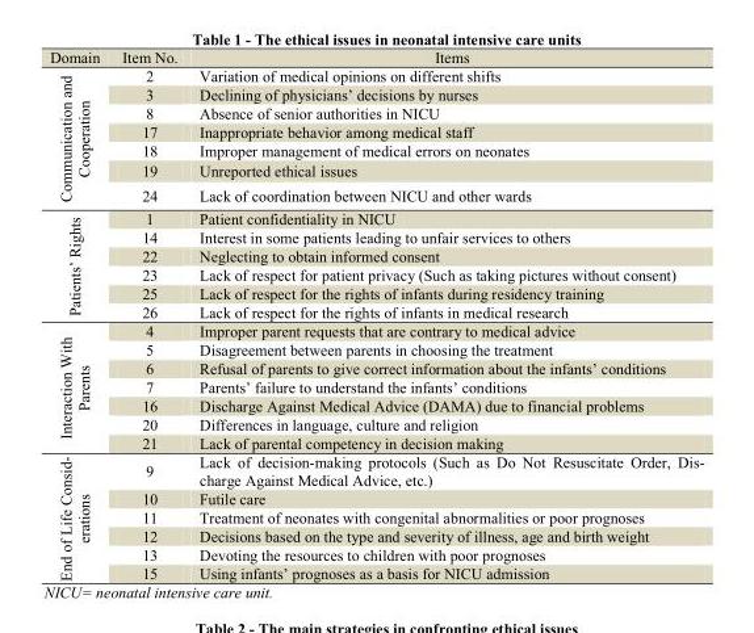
<table><thead><tr><td>Domain</td><td>Item No.</td><td>Items</td></tr></thead><tbody><tr><td rowspan="7">Communication and Cooperation</td><td>2</td><td>Variation of medical opinions on different shifts</td></tr><tr><td>3</td><td>Declining of physicians’ decisions by nurses</td></tr><tr><td>8</td><td>Absence of senior authorities in NICU</td></tr><tr><td>17</td><td>Inappropriate behavior among medical staff</td></tr><tr><td>18</td><td>Improper management of medical errors on neonates</td></tr><tr><td>19</td><td>Unreported ethical issues</td></tr><tr><td>24</td><td>Lack of coordination between NICU and other wards</td></tr><tr><td rowspan="6">Patients’ Rights</td><td>1</td><td>Patient confidentiality in NICU</td></tr><tr><td>14</td><td>Interest in some patients leading to unfair services to others</td></tr><tr><td>22</td><td>Neglecting to obtain informed consent</td></tr><tr><td>23</td><td>Lack of respect for patient privacy (Such as taking pictures without consent)</td></tr><tr><td>25</td><td>Lack of respect for the rights of infants during residency training</td></tr><tr><td>26</td><td>Lack of respect for the rights of infants in medical research</td></tr><tr><td rowspan="7">Interaction With Parents</td><td>4</td><td>Improper parent requests that are contrary to medical advice</td></tr><tr><td>5</td><td>Disagreement between parents in choosing the treatment</td></tr><tr><td>6</td><td>Refusal of parents to give correct information about the infants’ conditions</td></tr><tr><td>7</td><td>Parents’ failure to understand the infants’ conditions</td></tr><tr><td>16</td><td>Discharge Against Medical Advice (DAMA) due to financial problems</td></tr><tr><td>20</td><td>Differences in language, culture and religion</td></tr><tr><td>21</td><td>Lack of parental competency in decision making</td></tr><tr><td rowspan="6">End of Life Consid- erations</td><td>9</td><td>Lack of decision-making protocols (Such as Do Not Resuscitate Order, Dis- charge Against Medical Advice, etc.)</td></tr><tr><td>10</td><td>Futile care</td></tr><tr><td>11</td><td>Treatment of neonates with congenital abnormalities or poor prognoses</td></tr><tr><td>12</td><td>Decisions based on the type and severity of illness, age and birth weight</td></tr><tr><td>13</td><td>Devoting the resources to children with poor prognoses</td></tr><tr><td>15</td><td>Using infants’ prognoses as a basis for NICU admission</td></tr></tbody></table>